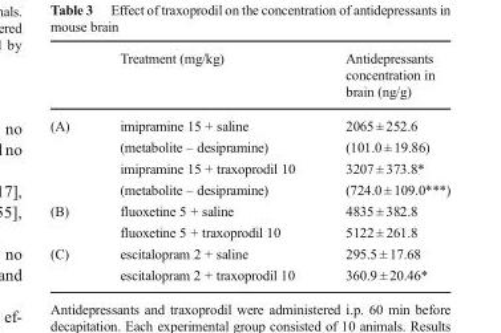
<table><thead><tr><td></td><td>Treatment (mg/kg)</td><td>Antidepressants concentration in brain (ng/g)</td></tr></thead><tbody><tr><td rowspan="4">(A)</td><td>imipramine 15 + saline</td><td>2065 ± 252.6</td></tr><tr><td>(metabolite – desipramine)</td><td>(101.0 ± 19.86)</td></tr><tr><td>imipramine 15 + traxoprodil 10</td><td>3207 ± 373.8*</td></tr><tr><td>(metabolite – desipramine)</td><td>(724.0 ± 109.0***)</td></tr><tr><td rowspan="2">(B)</td><td>fluoxetine 5 + saline</td><td>4835 ± 382.8</td></tr><tr><td>fluoxetine 5 + traxoprodil 10</td><td>5122 ± 261.8</td></tr><tr><td rowspan="2">(C)</td><td>escitalopram 2 + saline</td><td>295.5 ± 17.68</td></tr><tr><td>escitalopram 2 + traxoprodil 10</td><td>360.9 ± 20.46*</td></tr></tbody></table>